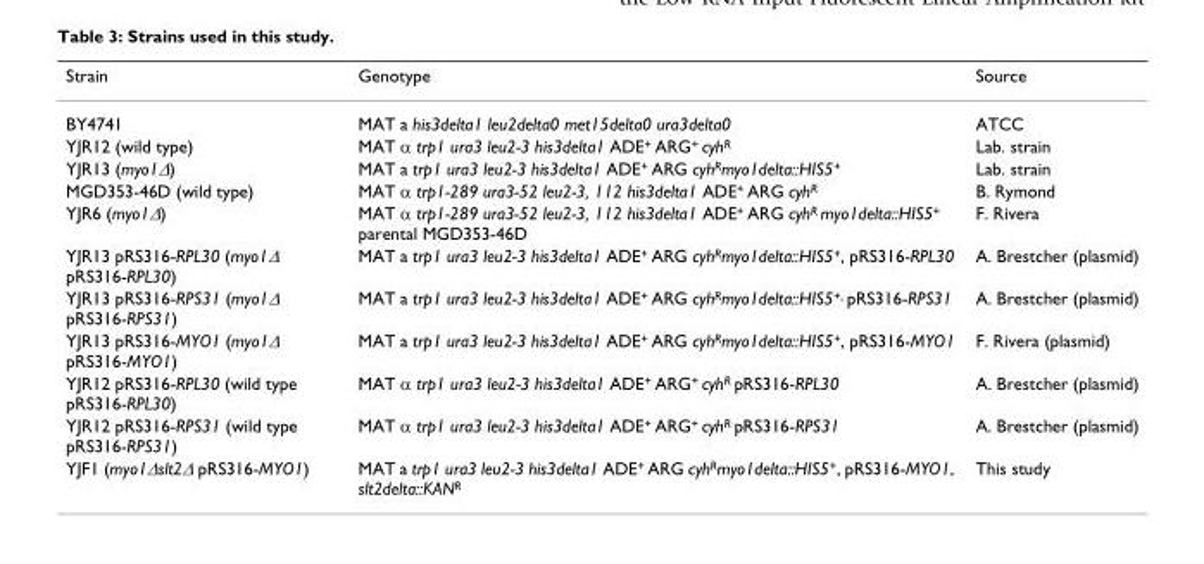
<table><thead><tr><td>Strain</td><td>Genotype</td><td>Source</td></tr></thead><tbody><tr><td>BY4741</td><td>MAT a his3delta1 leu2delta0 met15delta0 ura3delta0</td><td>ATCC</td></tr><tr><td>YJR12 (wild type)</td><td>MAT α trp1 ura3 leu2-3 his3delta1 ADE<sup>+</sup> ARG<sup>+</sup> cyh<sup>R</sup></td><td>Lab. strain</td></tr><tr><td>YJR13 (myo1∆)</td><td>MAT a trp1 ura3 leu2-3 his3delta1 ADE<sup>+</sup> ARG cyh<sup>R</sup>myo1delta::HIS5<sup>+</sup></td><td>Lab. strain</td></tr><tr><td>MGD353-46D (wild type)</td><td>MAT α trp1-289 ura3-52 leu2-3, 112 his3delta1 ADE<sup>+</sup> ARG cyh<sup>R</sup></td><td>B. Rymond</td></tr><tr><td>YJR6 (myo1∆)</td><td>MAT α trp1-289 ura3-52 leu2-3, 112 his3delta1 ADE<sup>+</sup> ARG cyh<sup>R</sup> myo1delta::HIS5<sup>+</sup> parental MGD353-46D</td><td>F. Rivera</td></tr><tr><td>YJR13 pRS316-RPL30 (myo1∆ pRS316-RPL30)</td><td>MAT a trp1 ura3 leu2-3 his3delta1 ADE<sup>+</sup> ARG cyh<sup>R</sup>myo1delta::HIS5<sup>+</sup>, pRS316-RPL30</td><td>A. Brestcher (plasmid)</td></tr><tr><td>YJR13 pRS316-RPS31 (myo1∆ pRS316-RPS31)</td><td>MAT a trp1 ura3 leu2-3 his3delta1 ADE<sup>+</sup> ARG cyh<sup>R</sup>myo1delta::HIS5<sup>+,</sup> pRS316-RPS31</td><td>A. Brestcher (plasmid)</td></tr><tr><td>YJR13 pRS316-MYO1 (myo1∆ pRS316-MYO1)</td><td>MAT a trp1 ura3 leu2-3 his3delta1 ADE<sup>+</sup> ARG cyh<sup>R</sup>myo1delta::HIS5<sup>+</sup>, pRS316-MYO1</td><td>F. Rivera (plasmid)</td></tr><tr><td>YJR12 pRS316-RPL30 (wild type pRS316-RPL30)</td><td>MAT α trp1 ura3 leu2-3 his3delta1 ADE<sup>+</sup> ARG<sup>+</sup> cyh<sup>R</sup> pRS316-RPL30</td><td>A. Brestcher (plasmid)</td></tr><tr><td>YJR12 pRS316-RPS31 (wild type pRS316-RPS31)</td><td>MAT α trp1 ura3 leu2-3 his3delta1 ADE<sup>+</sup> ARG<sup>+</sup> cyh<sup>R</sup> pRS316-RPS31</td><td>A. Brestcher (plasmid)</td></tr><tr><td>YJF1 (myo1∆slt2∆ pRS316-MYO1)</td><td>MAT a trp1 ura3 leu2-3 his3delta1 ADE<sup>+</sup> ARG cyh<sup>R</sup>myo1delta::HIS5<sup>+</sup>, pRS316-MYO1, slt2delta::KAN<sup>R</sup></td><td>This study</td></tr></tbody></table>